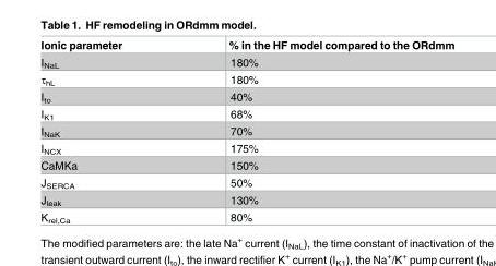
<table><thead><tr><td>Ionic parameter</td><td>% in the HF model compared to the ORdmm</td></tr></thead><tbody><tr><td>I<sub>NaL</sub></td><td>180%</td></tr><tr><td>τ<sub>hL</sub></td><td>180%</td></tr><tr><td>I<sub>to</sub></td><td>40%</td></tr><tr><td>I<sub>K1</sub></td><td>68%</td></tr><tr><td>I<sub>NaK</sub></td><td>70%</td></tr><tr><td>I<sub>NCX</sub></td><td>175%</td></tr><tr><td>CaMKa</td><td>150%</td></tr><tr><td>J<sub>SERCA</sub></td><td>50%</td></tr><tr><td>J<sub>leak</sub></td><td>130%</td></tr><tr><td>K<sub>rel,Ca</sub></td><td>80%</td></tr></tbody></table>